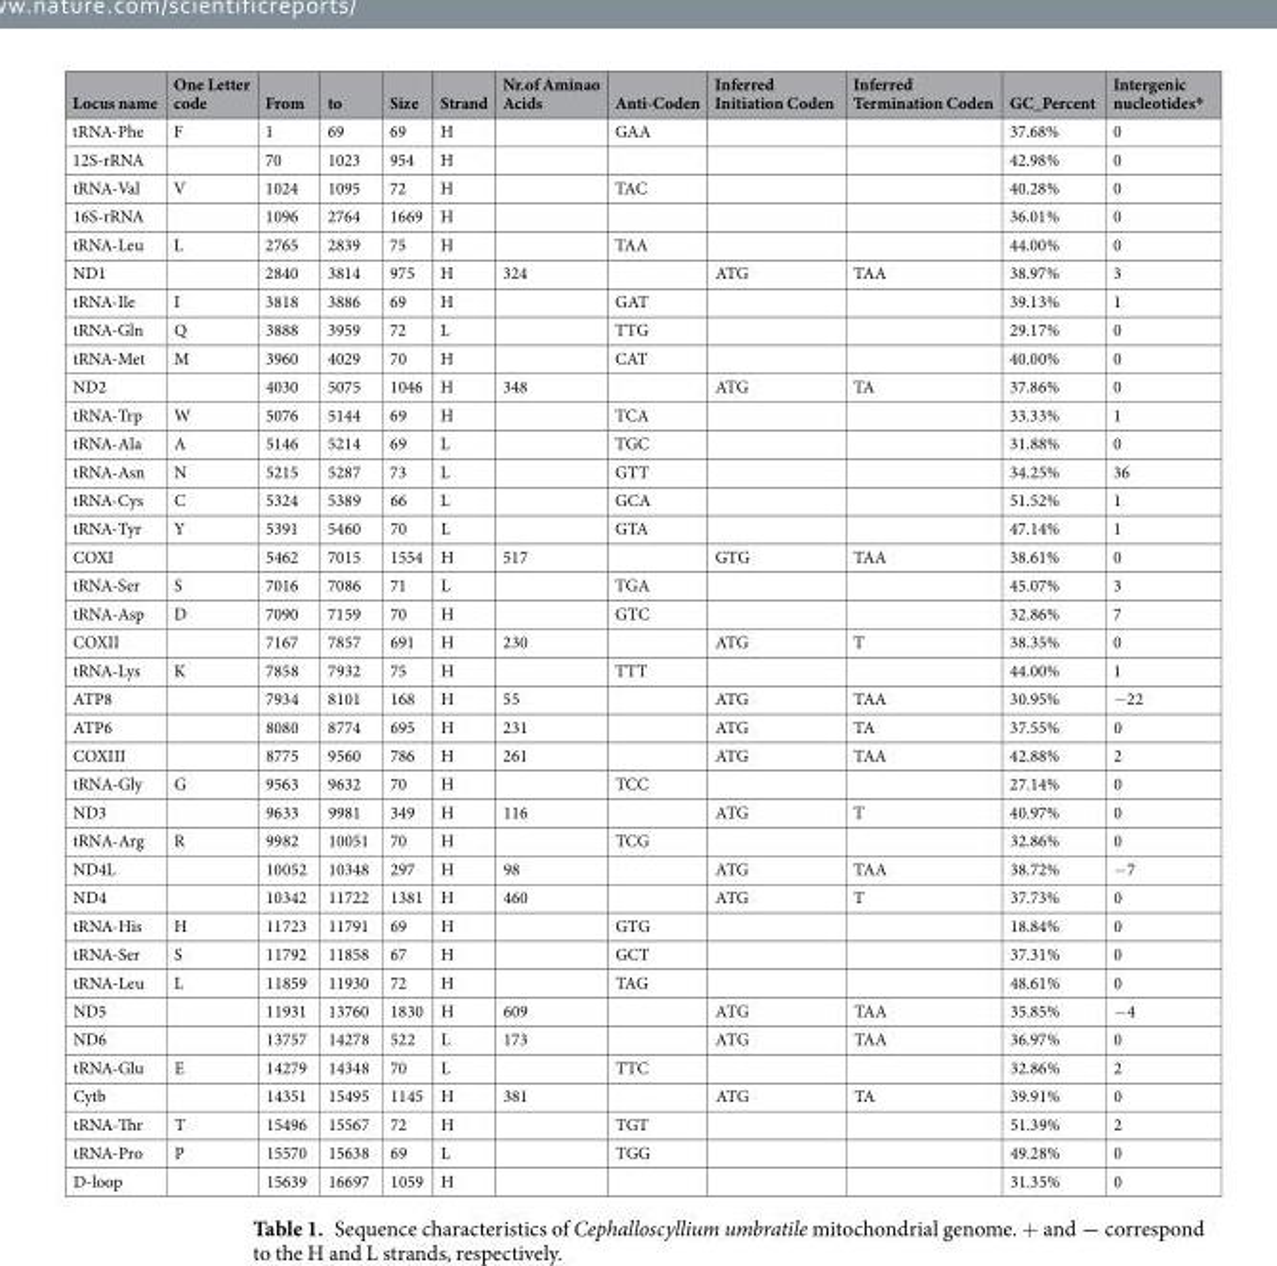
<table><thead><tr><td>Locus name</td><td>One Letter code</td><td>From</td><td>to</td><td>Size</td><td>Strand</td><td>Nr.of Aminao Acids</td><td>Anti-Coden</td><td>Inferred Initiation Coden</td><td>Inferred Termination Coden</td><td>GC_Percent</td><td>Intergenic nucleotides*</td></tr></thead><tbody><tr><td>tRNA-Phe</td><td>F</td><td>1</td><td>69</td><td>69</td><td>H</td><td></td><td>GAA</td><td></td><td></td><td>37.68%</td><td>0</td></tr><tr><td>12S-rRNA</td><td></td><td>70</td><td>1023</td><td>954</td><td>H</td><td></td><td></td><td></td><td></td><td>42.98%</td><td>0</td></tr><tr><td>tRNA-Val</td><td>V</td><td>1024</td><td>1095</td><td>72</td><td>H</td><td></td><td>TAC</td><td></td><td></td><td>40.28%</td><td>0</td></tr><tr><td>16S-rRNA</td><td></td><td>1096</td><td>2764</td><td>1669</td><td>H</td><td></td><td></td><td></td><td></td><td>36.01%</td><td>0</td></tr><tr><td>tRNA-Leu</td><td>L</td><td>2765</td><td>2839</td><td>75</td><td>H</td><td></td><td>TAA</td><td></td><td></td><td>44.00%</td><td>0</td></tr><tr><td>ND1</td><td></td><td>2840</td><td>3814</td><td>975</td><td>H</td><td>324</td><td></td><td>ATG</td><td>TAA</td><td>38.97%</td><td>3</td></tr><tr><td>tRNA-Ile</td><td>I</td><td>3818</td><td>3886</td><td>69</td><td>H</td><td></td><td>GAT</td><td></td><td></td><td>39.13%</td><td>1</td></tr><tr><td>tRNA-Gln</td><td>Q</td><td>3888</td><td>3959</td><td>72</td><td>L</td><td></td><td>TTG</td><td></td><td></td><td>29.17%</td><td>0</td></tr><tr><td>tRNA-Met</td><td>M</td><td>3960</td><td>4029</td><td>70</td><td>H</td><td></td><td>CAT</td><td></td><td></td><td>40.00%</td><td>0</td></tr><tr><td>ND2</td><td></td><td>4030</td><td>5075</td><td>1046</td><td>H</td><td>348</td><td></td><td>ATG</td><td>TA</td><td>37.86%</td><td>0</td></tr><tr><td>tRNA-Trp</td><td>W</td><td>5076</td><td>5144</td><td>69</td><td>H</td><td></td><td>TCA</td><td></td><td></td><td>33.33%</td><td>1</td></tr><tr><td>tRNA-Ala</td><td>A</td><td>5146</td><td>5214</td><td>69</td><td>L</td><td></td><td>TGC</td><td></td><td></td><td>31.88%</td><td>0</td></tr><tr><td>tRNA-Asn</td><td>N</td><td>5215</td><td>5287</td><td>73</td><td>L</td><td></td><td>GTT</td><td></td><td></td><td>34.25%</td><td>36</td></tr><tr><td>tRNA-Cys</td><td>C</td><td>5324</td><td>5389</td><td>66</td><td>L</td><td></td><td>GCA</td><td></td><td></td><td>51.52%</td><td>1</td></tr><tr><td>tRNA-Tyr</td><td>Y</td><td>5391</td><td>5460</td><td>70</td><td>L</td><td></td><td>GTA</td><td></td><td></td><td>47.14%</td><td>1</td></tr><tr><td>COXI</td><td></td><td>5462</td><td>7015</td><td>1554</td><td>H</td><td>517</td><td></td><td>GTG</td><td>TAA</td><td>38.61%</td><td>0</td></tr><tr><td>tRNA-Ser</td><td>S</td><td>7016</td><td>7086</td><td>71</td><td>L</td><td></td><td>TGA</td><td></td><td></td><td>45.07%</td><td>3</td></tr><tr><td>tRNA-Asp</td><td>D</td><td>7090</td><td>7159</td><td>70</td><td>H</td><td></td><td>GTC</td><td></td><td></td><td>32.86%</td><td>7</td></tr><tr><td>COXII</td><td></td><td>7167</td><td>7857</td><td>691</td><td>H</td><td>230</td><td></td><td>ATG</td><td>T</td><td>38.35%</td><td>0</td></tr><tr><td>tRNA-Lys</td><td>K</td><td>7858</td><td>7932</td><td>75</td><td>H</td><td></td><td>TTT</td><td></td><td></td><td>44.00%</td><td>1</td></tr><tr><td>ATP8</td><td></td><td>7934</td><td>8101</td><td>168</td><td>H</td><td>55</td><td></td><td>ATG</td><td>TAA</td><td>30.95%</td><td>−22</td></tr><tr><td>ATP6</td><td></td><td>8080</td><td>8774</td><td>695</td><td>H</td><td>231</td><td></td><td>ATG</td><td>TA</td><td>37.55%</td><td>0</td></tr><tr><td>COXIII</td><td></td><td>8775</td><td>9560</td><td>786</td><td>H</td><td>261</td><td></td><td>ATG</td><td>TAA</td><td>42.88%</td><td>2</td></tr><tr><td>tRNA-Gly</td><td>G</td><td>9563</td><td>9632</td><td>70</td><td>H</td><td></td><td>TCC</td><td></td><td></td><td>27.14%</td><td>0</td></tr><tr><td>ND3</td><td></td><td>9633</td><td>9981</td><td>349</td><td>H</td><td>116</td><td></td><td>ATG</td><td>T</td><td>40.97%</td><td>0</td></tr><tr><td>tRNA-Arg</td><td>R</td><td>9982</td><td>10051</td><td>70</td><td>H</td><td></td><td>TCG</td><td></td><td></td><td>32.86%</td><td>0</td></tr><tr><td>ND4L</td><td></td><td>10052</td><td>10348</td><td>297</td><td>H</td><td>98</td><td></td><td>ATG</td><td>TAA</td><td>38.72%</td><td>−7</td></tr><tr><td>ND4</td><td></td><td>10342</td><td>11722</td><td>1381</td><td>H</td><td>460</td><td></td><td>ATG</td><td>T</td><td>37.73%</td><td>0</td></tr><tr><td>tRNA-His</td><td>H</td><td>11723</td><td>11791</td><td>69</td><td>H</td><td></td><td>GTG</td><td></td><td></td><td>18.84%</td><td>0</td></tr><tr><td>tRNA-Ser</td><td>S</td><td>11792</td><td>11858</td><td>67</td><td>H</td><td></td><td>GCT</td><td></td><td></td><td>37.31%</td><td>0</td></tr><tr><td>tRNA-Leu</td><td>L</td><td>11859</td><td>11930</td><td>72</td><td>H</td><td></td><td>TAG</td><td></td><td></td><td>48.61%</td><td>0</td></tr><tr><td>ND5</td><td></td><td>11931</td><td>13760</td><td>1830</td><td>H</td><td>609</td><td></td><td>ATG</td><td>TAA</td><td>35.85%</td><td>−4</td></tr><tr><td>ND6</td><td></td><td>13757</td><td>14278</td><td>522</td><td>L</td><td>173</td><td></td><td>ATG</td><td>TAA</td><td>36.97%</td><td>0</td></tr><tr><td>tRNA-Glu</td><td>E</td><td>14279</td><td>14348</td><td>70</td><td>L</td><td></td><td>TTC</td><td></td><td></td><td>32.86%</td><td>2</td></tr><tr><td>Cytb</td><td></td><td>14351</td><td>15495</td><td>1145</td><td>H</td><td>381</td><td></td><td>ATG</td><td>TA</td><td>39.91%</td><td>0</td></tr><tr><td>tRNA-Thr</td><td>T</td><td>15496</td><td>15567</td><td>72</td><td>H</td><td></td><td>TGT</td><td></td><td></td><td>51.39%</td><td>2</td></tr><tr><td>tRNA-Pro</td><td>P</td><td>15570</td><td>15638</td><td>69</td><td>L</td><td></td><td>TGG</td><td></td><td></td><td>49.28%</td><td>0</td></tr><tr><td>D-loop</td><td></td><td>15639</td><td>16697</td><td>1059</td><td>H</td><td></td><td></td><td></td><td></td><td>31.35%</td><td>0</td></tr></tbody></table>